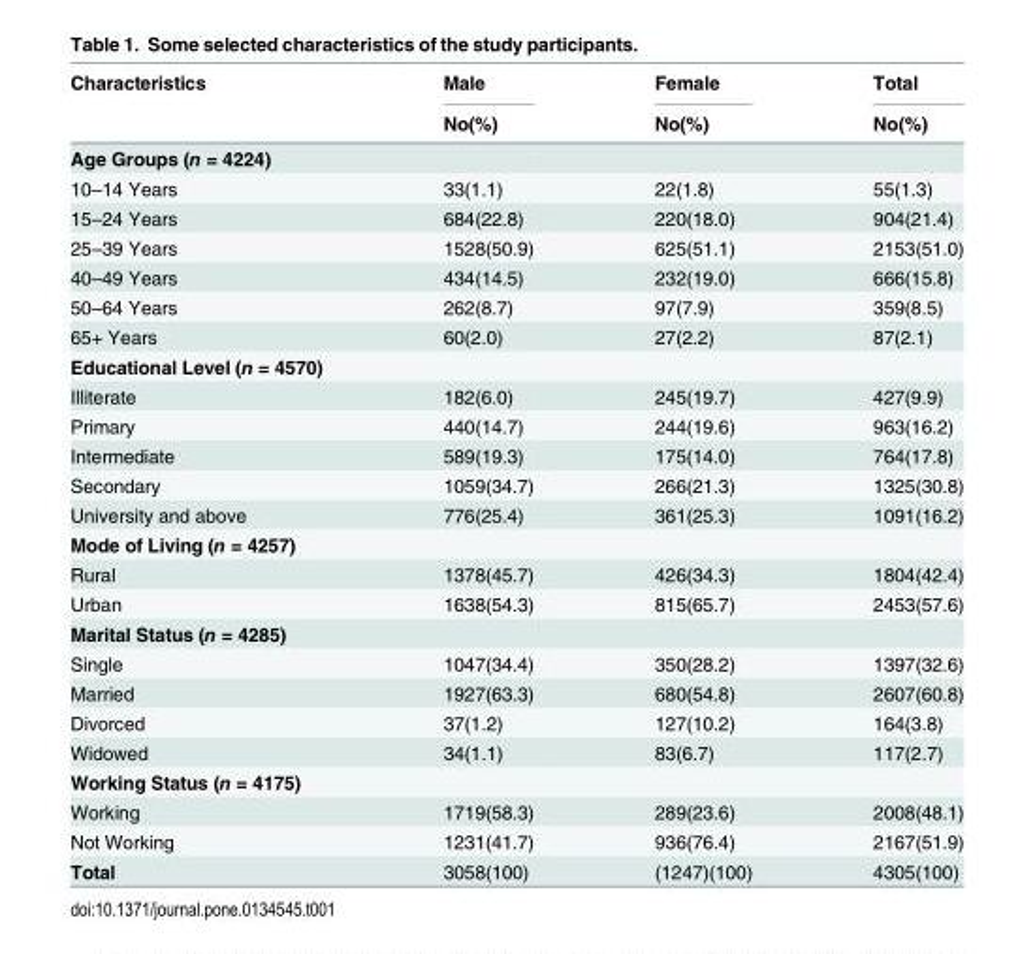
<table><thead><tr><td rowspan="2">Characteristics</td><td rowspan="2">Male No(%)</td><td rowspan="2">Female No(%)</td><td rowspan="2">Total No(%)</td></tr><tr></tr></thead><tbody><tr><td colspan="4">Age Groups (n = 4224)</td></tr><tr><td>10–14 Years</td><td>33(1.1)</td><td>22(1.8)</td><td>55(1.3)</td></tr><tr><td>15–24 Years</td><td>684(22.8)</td><td>220(18.0)</td><td>904(21.4)</td></tr><tr><td>25–39 Years</td><td>1528(50.9)</td><td>625(51.1)</td><td>2153(51.0)</td></tr><tr><td>40–49 Years</td><td>434(14.5)</td><td>232(19.0)</td><td>666(15.8)</td></tr><tr><td>50–64 Years</td><td>262(8.7)</td><td>97(7.9)</td><td>359(8.5)</td></tr><tr><td>65+ Years</td><td>60(2.0)</td><td>27(2.2)</td><td>87(2.1)</td></tr><tr><td colspan="4">Educational Level (n = 4570)</td></tr><tr><td>Illiterate</td><td>182(6.0)</td><td>245(19.7)</td><td>427(9.9)</td></tr><tr><td>Primary</td><td>440(14.7)</td><td>244(19.6)</td><td>963(16.2)</td></tr><tr><td>Intermediate</td><td>589(19.3)</td><td>175(14.0)</td><td>764(17.8)</td></tr><tr><td>Secondary</td><td>1059(34.7)</td><td>266(21.3)</td><td>1325(30.8)</td></tr><tr><td>University and above</td><td>776(25.4)</td><td>361(25.3)</td><td>1091(16.2)</td></tr><tr><td colspan="4">Mode of Living (n = 4257)</td></tr><tr><td>Rural</td><td>1378(45.7)</td><td>426(34.3)</td><td>1804(42.4)</td></tr><tr><td>Urban</td><td>1638(54.3)</td><td>815(65.7)</td><td>2453(57.6)</td></tr><tr><td colspan="4">Marital Status (n = 4285)</td></tr><tr><td>Single</td><td>1047(34.4)</td><td>350(28.2)</td><td>1397(32.6)</td></tr><tr><td>Married</td><td>1927(63.3)</td><td>680(54.8)</td><td>2607(60.8)</td></tr><tr><td>Divorced</td><td>37(1.2)</td><td>127(10.2)</td><td>164(3.8)</td></tr><tr><td>Widowed</td><td>34(1.1)</td><td>83(6.7)</td><td>117(2.7)</td></tr><tr><td colspan="4">Working Status (n = 4175)</td></tr><tr><td>Working</td><td>1719(58.3)</td><td>289(23.6)</td><td>2008(48.1)</td></tr><tr><td>Not Working</td><td>1231(41.7)</td><td>936(76.4)</td><td>2167(51.9)</td></tr><tr><td>Total</td><td>3058(100)</td><td>(1247)(100)</td><td>4305(100)</td></tr></tbody></table>